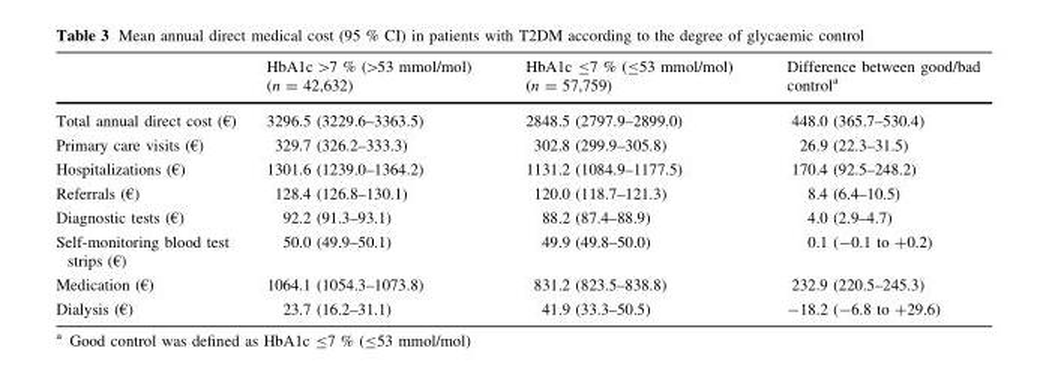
<table><thead><tr><td></td><td>HbA1c &gt;7 % (&gt;53 mmol/mol) (n = 42,632)</td><td>HbA1c ≤7 % (≤53 mmol/mol) (n = 57,759)</td><td>Difference between good/bad control<sup>a</sup></td></tr></thead><tbody><tr><td>Total annual direct cost (€)</td><td>3296.5 (3229.6–3363.5)</td><td>2848.5 (2797.9–2899.0)</td><td>448.0 (365.7–530.4)</td></tr><tr><td>Primary care visits (€)</td><td>329.7 (326.2–333.3)</td><td>302.8 (299.9–305.8)</td><td>26.9 (22.3–31.5)</td></tr><tr><td>Hospitalizations (€)</td><td>1301.6 (1239.0–1364.2)</td><td>1131.2 (1084.9–1177.5)</td><td>170.4 (92.5–248.2)</td></tr><tr><td>Referrals (€)</td><td>128.4 (126.8–130.1)</td><td>120.0 (118.7–121.3)</td><td>8.4 (6.4–10.5)</td></tr><tr><td>Diagnostic tests (€)</td><td>92.2 (91.3–93.1)</td><td>88.2 (87.4–88.9)</td><td>4.0 (2.9–4.7)</td></tr><tr><td>Self-monitoring blood test strips (€)</td><td>50.0 (49.9–50.1)</td><td>49.9 (49.8–50.0)</td><td>0.1 (-0.1 to +0.2)</td></tr><tr><td>Medication (€)</td><td>1064.1 (1054.3–1073.8)</td><td>831.2 (823.5–838.8)</td><td>232.9 (220.5–245.3)</td></tr><tr><td>Dialysis (€)</td><td>23.7 (16.2–31.1)</td><td>41.9 (33.3–50.5)</td><td>-18.2 (-6.8 to +29.6)</td></tr></tbody></table>